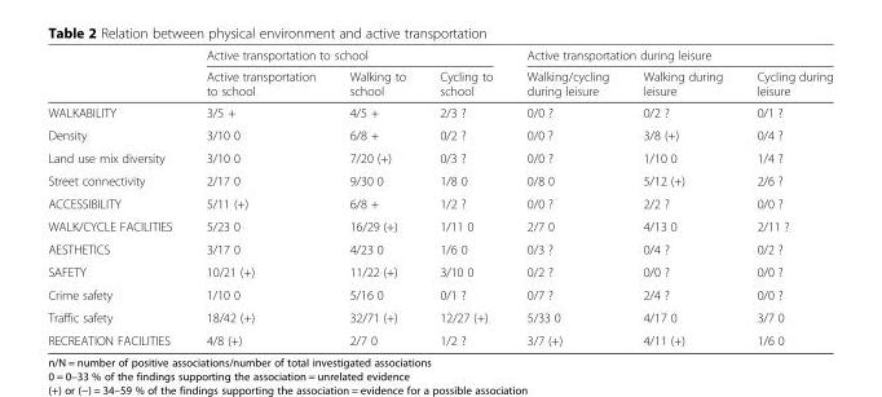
<table><thead><tr><td rowspan="2"></td><td colspan="3">Active transportation to school</td><td colspan="3">Active transportation during leisure</td></tr><tr><td>Active transportation to school</td><td>Walking to school</td><td>Cycling to school</td><td>Walking/cycling during leisure</td><td>Walking during leisure</td><td>Cycling during leisure</td></tr></thead><tbody><tr><td>WALKABILITY</td><td>3/5 +</td><td>4/5 +</td><td>2/3 ?</td><td>0/0 ?</td><td>0/2 ?</td><td>0/1 ?</td></tr><tr><td>Density</td><td>3/10 0</td><td>6/8 +</td><td>0/2 ?</td><td>0/0 ?</td><td>3/8 (+)</td><td>0/4 ?</td></tr><tr><td>Land use mix diversity</td><td>3/10 0</td><td>7/20 (+)</td><td>0/3 ?</td><td>0/0 ?</td><td>1/10 0</td><td>1/4 ?</td></tr><tr><td>Street connectivity</td><td>2/17 0</td><td>9/30 0</td><td>1/8 0</td><td>0/8 0</td><td>5/12 (+)</td><td>2/6 ?</td></tr><tr><td>ACCESSIBILITY</td><td>5/11 (+)</td><td>6/8 +</td><td>1/2 ?</td><td>0/0 ?</td><td>2/2 ?</td><td>0/0 ?</td></tr><tr><td>WALK/CYCLE FACILITIES</td><td>5/23 0</td><td>16/29 (+)</td><td>1/11 0</td><td>2/7 0</td><td>4/13 0</td><td>2/11 ?</td></tr><tr><td>AESTHETICS</td><td>3/17 0</td><td>4/23 0</td><td>1/6 0</td><td>0/3 ?</td><td>0/4 ?</td><td>0/2 ?</td></tr><tr><td>SAFETY</td><td>10/21 (+)</td><td>11/22 (+)</td><td>3/10 0</td><td>0/2 ?</td><td>0/0 ?</td><td>0/0 ?</td></tr><tr><td>Crime safety</td><td>1/10 0</td><td>5/16 0</td><td>0/1 ?</td><td>0/7 ?</td><td>2/4 ?</td><td>0/0 ?</td></tr><tr><td>Traffic safety</td><td>18/42 (+)</td><td>32/71 (+)</td><td>12/27 (+)</td><td>5/33 0</td><td>4/17 0</td><td>3/7 0</td></tr><tr><td>RECREATION FACILITIES</td><td>4/8 (+)</td><td>2/7 0</td><td>1/2 ?</td><td>3/7 (+)</td><td>4/11 (+)</td><td>1/6 0</td></tr></tbody></table>